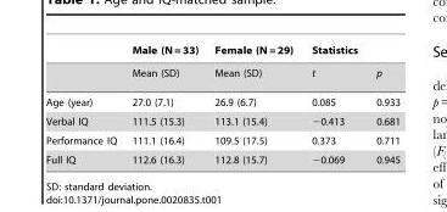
<table><thead><tr><td rowspan="2"></td><td rowspan="2">Male (N = 33) Mean (SD)</td><td rowspan="2">Female (N = 29) Mean (SD)</td><td colspan="2">Statistics</td></tr><tr><td>t</td><td>p</td></tr></thead><tbody><tr><td>Age (year)</td><td>27.0 (7.1)</td><td>26.9 (6.7)</td><td>0.085</td><td>0.933</td></tr><tr><td>Verbal IQ</td><td>111.5 (15.3)</td><td>113.1 (15.4)</td><td>−0.413</td><td>0.681</td></tr><tr><td>Performance IQ</td><td>111.1 (16.4)</td><td>109.5 (17.5)</td><td>0.373</td><td>0.711</td></tr><tr><td>Full IQ</td><td>112.6 (16.3)</td><td>112.8 (15.7)</td><td>−0.069</td><td>0.945</td></tr></tbody></table>